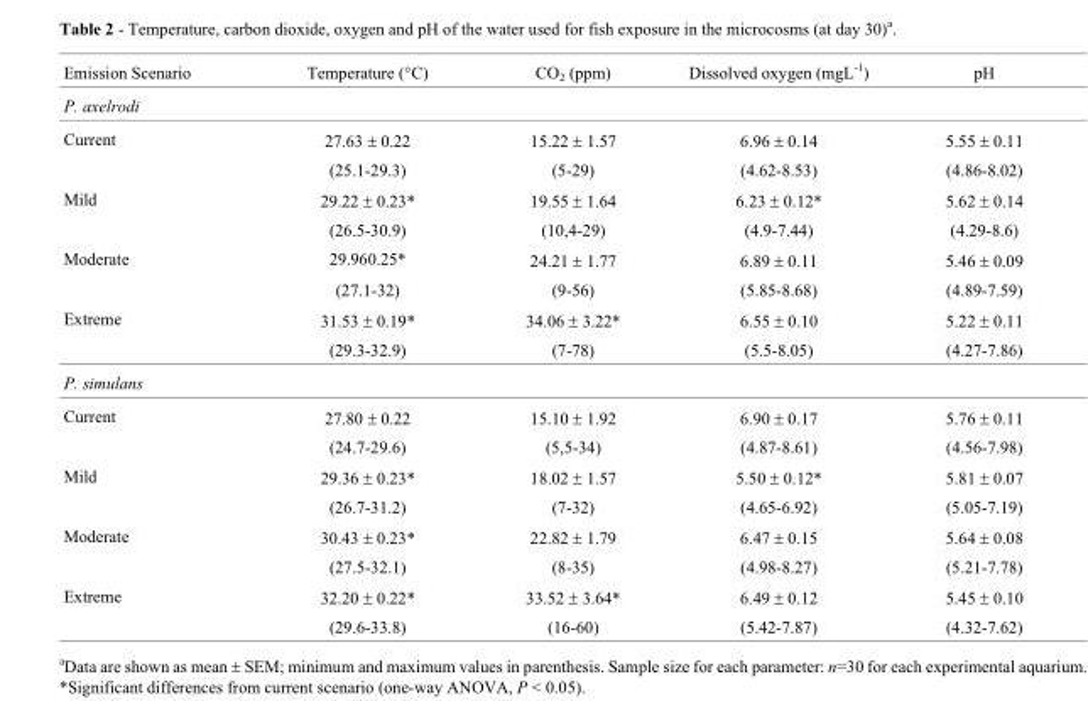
<table><thead><tr><td>Emission Scenario</td><td>Temperature (°C)</td><td>CO<sub>2</sub> (ppm)</td><td>Dissolved oxygen (mgL<sup>-1</sup>)</td><td>pH</td></tr></thead><tbody><tr><td colspan="5">P. axelrodi</td></tr><tr><td rowspan="2">Current</td><td>27.63 ± 0.22</td><td>15.22 ± 1.57</td><td>6.96 ± 0.14</td><td>5.55 ± 0.11</td></tr><tr><td>(25.1-29.3)</td><td>(5-29)</td><td>(4.62-8.53)</td><td>(4.86-8.02)</td></tr><tr><td rowspan="2">Mild</td><td>29.22 ± 0.23*</td><td>19.55 ± 1.64</td><td>6.23 ± 0.12*</td><td>5.62 ± 0.14</td></tr><tr><td>(26.5-30.9)</td><td>(10,4-29)</td><td>(4.9-7.44)</td><td>(4.29-8.6)</td></tr><tr><td rowspan="2">Moderate</td><td>29.960.25*</td><td>24.21 ± 1.77</td><td>6.89 ± 0.11</td><td>5.46 ± 0.09</td></tr><tr><td>(27.1-32)</td><td>(9-56)</td><td>(5.85-8.68)</td><td>(4.89-7.59)</td></tr><tr><td rowspan="2">Extreme</td><td>31.53 ± 0.19*</td><td>34.06 ± 3.22*</td><td>6.55 ± 0.10</td><td>5.22 ± 0.11</td></tr><tr><td>(29.3-32.9)</td><td>(7-78)</td><td>(5.5-8.05)</td><td>(4.27-7.86)</td></tr><tr><td colspan="5">P. simulans</td></tr><tr><td rowspan="2">Current</td><td>27.80 ± 0.22</td><td>15.10 ± 1.92</td><td>6.90 ± 0.17</td><td>5.76 ± 0.11</td></tr><tr><td>(24.7-29.6)</td><td>(5,5-34)</td><td>(4.87-8.61)</td><td>(4.56-7.98)</td></tr><tr><td rowspan="2">Mild</td><td>29.36 ± 0.23*</td><td>18.02 ± 1.57</td><td>5.50 ± 0.12*</td><td>5.81 ± 0.07</td></tr><tr><td>(26.7-31.2)</td><td>(7-32)</td><td>(4.65-6.92)</td><td>(5.05-7.19)</td></tr><tr><td rowspan="2">Moderate</td><td>30.43 ± 0.23*</td><td>22.82 ± 1.79</td><td>6.47 ± 0.15</td><td>5.64 ± 0.08</td></tr><tr><td>(27.5-32.1)</td><td>(8-35)</td><td>(4.98-8.27)</td><td>(5.21-7.78)</td></tr><tr><td rowspan="2">Extreme</td><td>32.20 ± 0.22*</td><td>33.52 ± 3.64*</td><td>6.49 ± 0.12</td><td>5.45 ± 0.10</td></tr><tr><td>(29.6-33.8)</td><td>(16-60)</td><td>(5.42-7.87)</td><td>(4.32-7.62)</td></tr></tbody></table>